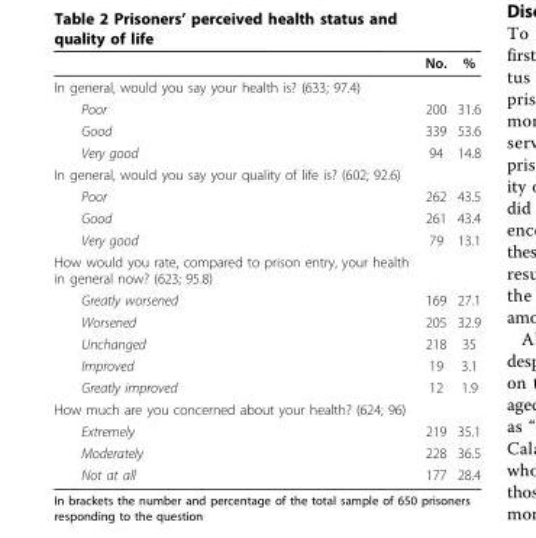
<table><thead><tr><td></td><td>No.</td><td>%</td></tr></thead><tbody><tr><td colspan="3">In general, would you say your health is? (633; 97.4)</td></tr><tr><td>Poor</td><td>200</td><td>31.6</td></tr><tr><td>Good</td><td>339</td><td>53.6</td></tr><tr><td>Very good</td><td>94</td><td>14.8</td></tr><tr><td colspan="3">In general, would you say your quality of life is? (602; 92.6)</td></tr><tr><td>Poor</td><td>262</td><td>43.5</td></tr><tr><td>Good</td><td>261</td><td>43.4</td></tr><tr><td>Very good</td><td>79</td><td>13.1</td></tr><tr><td colspan="3">How would you rate, compared to prison entry, your health in general now? (623; 95.8)</td></tr><tr><td>Greatly worsened</td><td>169</td><td>27.1</td></tr><tr><td>Worsened</td><td>205</td><td>32.9</td></tr><tr><td>Unchanged</td><td>218</td><td>35</td></tr><tr><td>Improved</td><td>19</td><td>3.1</td></tr><tr><td>Greatly improved</td><td>12</td><td>1.9</td></tr><tr><td colspan="3">How much are you concerned about your health? (624; 96)</td></tr><tr><td>Extremely</td><td>219</td><td>35.1</td></tr><tr><td>Moderately</td><td>228</td><td>36.5</td></tr><tr><td>Not at all</td><td>177</td><td>28.4</td></tr></tbody></table>